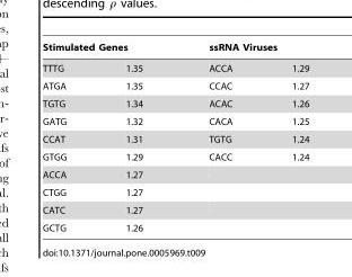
<table><thead><tr><td colspan="2">Stimulated Genes</td><td colspan="2">ssRNA Viruses</td></tr><tr><td>TTTG</td><td>1.35</td><td>ACCA</td><td>1.29</td></tr></thead><tbody><tr><td>ATGA</td><td>1.35</td><td>CCAC</td><td>1.27</td></tr><tr><td>TGTG</td><td>1.34</td><td>ACAC</td><td>1.26</td></tr><tr><td>GATG</td><td>1.32</td><td>CACA</td><td>1.25</td></tr><tr><td>CCAT</td><td>1.31</td><td>TGTG</td><td>1.24</td></tr><tr><td>GTGG</td><td>1.29</td><td>CACC</td><td>1.24</td></tr><tr><td>ACCA</td><td>1.27</td><td></td><td></td></tr><tr><td>CTGG</td><td>1.27</td><td></td><td></td></tr><tr><td>CATC</td><td>1.27</td><td></td><td></td></tr><tr><td>GCTG</td><td>1.26</td><td></td><td></td></tr></tbody></table>